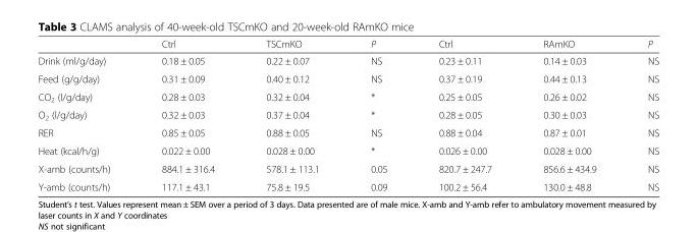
<table><thead><tr><td></td><td>Ctrl</td><td>TSCmKO</td><td>P</td><td>Ctrl</td><td>RAmKO</td><td>P</td></tr></thead><tbody><tr><td>Drink (ml/g/day)</td><td>0.18 ± 0.05</td><td>0.22 ± 0.07</td><td>NS</td><td>0.23 ± 0.11</td><td>0.14 ± 0.03</td><td>NS</td></tr><tr><td>Feed (g/g/day)</td><td>0.31 ± 0.09</td><td>0.40 ± 0.12</td><td>NS</td><td>0.37 ± 0.19</td><td>0.44 ± 0.13</td><td>NS</td></tr><tr><td>CO<sub>2</sub> (l/g/day)</td><td>0.28 ± 0.03</td><td>0.32 ± 0.04</td><td>*</td><td>0.25 ± 0.05</td><td>0.26 ± 0.02</td><td>NS</td></tr><tr><td>O<sub>2</sub> (l/g/day)</td><td>0.32 ± 0.03</td><td>0.37 ± 0.04</td><td>*</td><td>0.28 ± 0.05</td><td>0.30 ± 0.03</td><td>NS</td></tr><tr><td>RER</td><td>0.85 ± 0.05</td><td>0.88 ± 0.05</td><td>NS</td><td>0.88 ± 0.04</td><td>0.87 ± 0.01</td><td>NS</td></tr><tr><td>Heat (kcal/h/g)</td><td>0.022 ± 0.00</td><td>0.028 ± 0.00</td><td>*</td><td>0.026 ± 0.00</td><td>0.028 ± 0.00</td><td>NS</td></tr><tr><td>X-amb (counts/h)</td><td>884.1 ± 316.4</td><td>578.1 ± 113.1</td><td>0.05</td><td>820.7 ± 247.7</td><td>856.6 ± 434.9</td><td>NS</td></tr><tr><td>Y-amb (counts/h)</td><td>117.1 ± 43.1</td><td>75.8 ± 19.5</td><td>0.09</td><td>100.2 ± 56.4</td><td>130.0 ± 48.8</td><td>NS</td></tr></tbody></table>